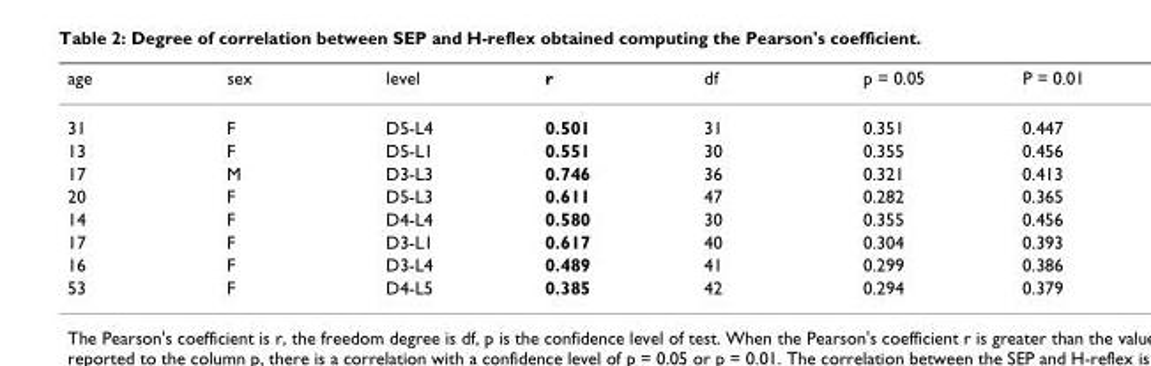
<table><thead><tr><td>age</td><td>sex</td><td>level</td><td>r</td><td>df</td><td>p = 0.05</td><td>P = 0.01</td></tr></thead><tbody><tr><td>31</td><td>F</td><td>D5-L4</td><td>0.501</td><td>31</td><td>0.351</td><td>0.447</td></tr><tr><td>13</td><td>F</td><td>D5-L1</td><td>0.551</td><td>30</td><td>0.355</td><td>0.456</td></tr><tr><td>17</td><td>M</td><td>D3-L3</td><td>0.746</td><td>36</td><td>0.321</td><td>0.413</td></tr><tr><td>20</td><td>F</td><td>D5-L3</td><td>0.611</td><td>47</td><td>0.282</td><td>0.365</td></tr><tr><td>14</td><td>F</td><td>D4-L4</td><td>0.580</td><td>30</td><td>0.355</td><td>0.456</td></tr><tr><td>17</td><td>F</td><td>D3-L1</td><td>0.617</td><td>40</td><td>0.304</td><td>0.393</td></tr><tr><td>16</td><td>F</td><td>D3-L4</td><td>0.489</td><td>41</td><td>0.299</td><td>0.386</td></tr><tr><td>53</td><td>F</td><td>D4-L5</td><td>0.385</td><td>42</td><td>0.294</td><td>0.379</td></tr></tbody></table>